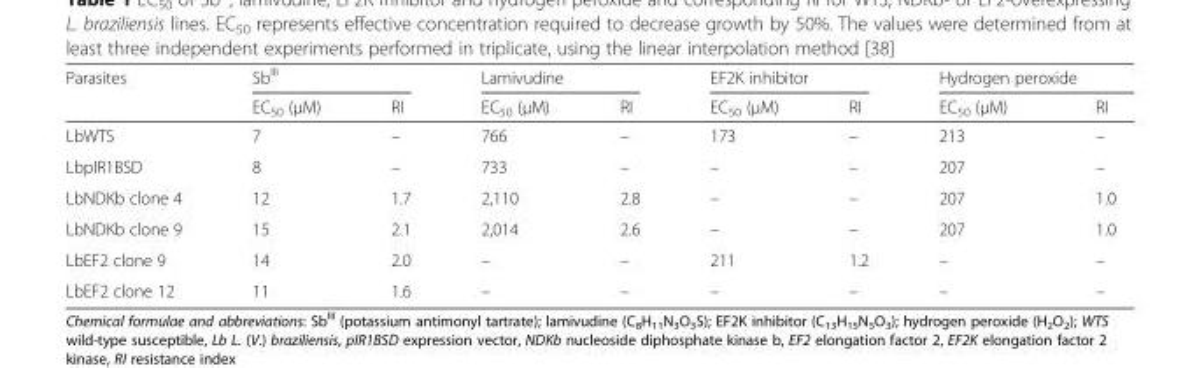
<table><thead><tr><td rowspan="2">Parasites</td><td colspan="2">Sb<sup>III</sup></td><td colspan="2">Lamivudine</td><td colspan="2">EF2K inhibitor</td><td colspan="2">Hydrogen peroxide</td></tr><tr><td>EC<sub>50</sub> (μM)</td><td>RI</td><td>EC<sub>50</sub> (μM)</td><td>RI</td><td>EC<sub>50</sub> (μM)</td><td>RI</td><td>EC<sub>50</sub> (μM)</td><td>RI</td></tr></thead><tbody><tr><td>LbWTS</td><td>7</td><td>–</td><td>766</td><td>–</td><td>173</td><td>–</td><td>213</td><td>–</td></tr><tr><td>LbpIR1BSD</td><td>8</td><td>–</td><td>733</td><td>–</td><td>–</td><td>–</td><td>207</td><td>–</td></tr><tr><td>LbNDKb clone 4</td><td>12</td><td>1.7</td><td>2,110</td><td>2.8</td><td>–</td><td>–</td><td>207</td><td>1.0</td></tr><tr><td>LbNDKb clone 9</td><td>15</td><td>2.1</td><td>2,014</td><td>2.6</td><td>–</td><td>–</td><td>207</td><td>1.0</td></tr><tr><td>LbEF2 clone 9</td><td>14</td><td>2.0</td><td>–</td><td>–</td><td>211</td><td>1.2</td><td>–</td><td>–</td></tr><tr><td>LbEF2 clone 12</td><td>11</td><td>1.6</td><td>–</td><td>–</td><td>–</td><td>–</td><td>–</td><td>–</td></tr></tbody></table>